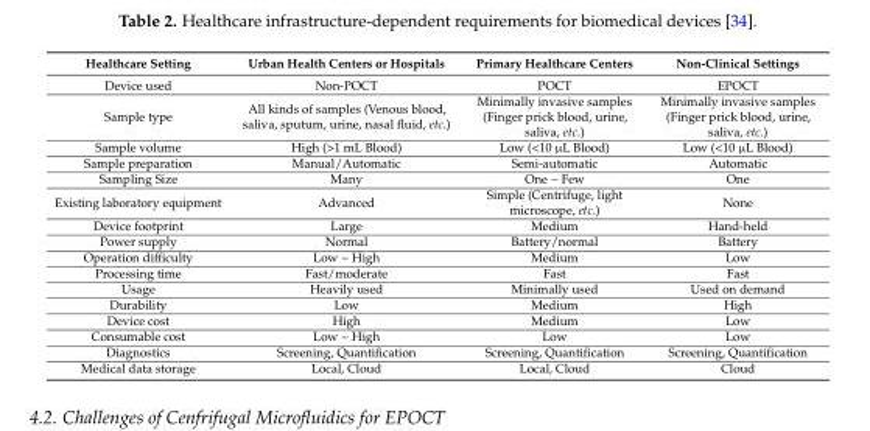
<table><thead><tr><td>Healthcare Setting</td><td>Urban Health Centers or Hospitals</td><td>Primary Healthcare Centers</td><td>Non-Clinical Settings</td></tr></thead><tbody><tr><td>Device used</td><td>Non-POCT</td><td>POCT</td><td>EPOCT</td></tr><tr><td>Sample type</td><td>All kinds of samples (Venous blood, saliva, sputum, urine, nasal fluid, etc.)</td><td>Minimally invasive samples (Finger prick blood, urine, saliva, etc.)</td><td>Minimally invasive samples (Finger prick blood, urine, saliva, etc.)</td></tr><tr><td>Sample volume</td><td>High (&gt;1 mL Blood)</td><td>Low (&lt;10 µL Blood)</td><td>Low (&lt;10 µL Blood)</td></tr><tr><td>Sample preparation</td><td>Manual/Automatic</td><td>Semi-automatic</td><td>Automatic</td></tr><tr><td>Sampling Size</td><td>Many</td><td>One ~ Few</td><td>One</td></tr><tr><td>Existing laboratory equipment</td><td>Advanced</td><td>Simple (Centrifuge, light microscope, etc.)</td><td>None</td></tr><tr><td>Device footprint</td><td>Large</td><td>Medium</td><td>Hand-held</td></tr><tr><td>Power supply</td><td>Normal</td><td>Battery/normal</td><td>Battery</td></tr><tr><td>Operation difficulty</td><td>Low ~ High</td><td>Medium</td><td>Low</td></tr><tr><td>Processing time</td><td>Fast/moderate</td><td>Fast</td><td>Fast</td></tr><tr><td>Usage</td><td>Heavily used</td><td>Minimally used</td><td>Used on demand</td></tr><tr><td>Durability</td><td>Low</td><td>Medium</td><td>High</td></tr><tr><td>Device cost</td><td>High</td><td>Medium</td><td>Low</td></tr><tr><td>Consumable cost</td><td>Low ~ High</td><td>Low</td><td>Low</td></tr><tr><td>Diagnostics</td><td>Screening, Quantification</td><td>Screening, Quantification</td><td>Screening, Quantification</td></tr><tr><td>Medical data storage</td><td>Local, Cloud</td><td>Local, Cloud</td><td>Cloud</td></tr></tbody></table>